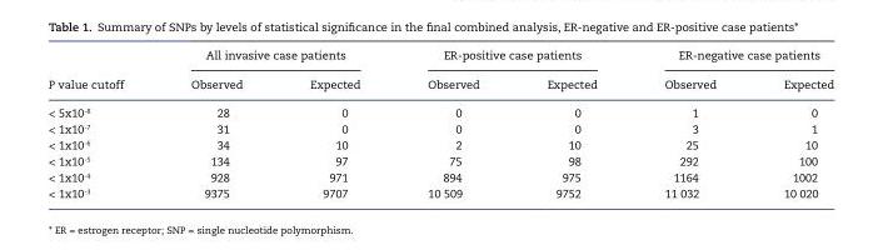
<table><thead><tr><td rowspan="2">P value cutoff</td><td colspan="2">All invasive case patients</td><td colspan="2">ER-positive case patients</td><td colspan="2">ER-negative case patients</td></tr><tr><td>Observed</td><td>Expected</td><td>Observed</td><td>Expected</td><td>Observed</td><td>Expected</td></tr></thead><tbody><tr><td>&lt; 5x10<sup>-8</sup></td><td>28</td><td>0</td><td>0</td><td>0</td><td>1</td><td>0</td></tr><tr><td>&lt; 1x10<sup>-7</sup></td><td>31</td><td>0</td><td>0</td><td>0</td><td>3</td><td>1</td></tr><tr><td>&lt; 1x10<sup>-6</sup></td><td>34</td><td>10</td><td>2</td><td>10</td><td>25</td><td>10</td></tr><tr><td>&lt; 1x10<sup>-5</sup></td><td>134</td><td>97</td><td>75</td><td>98</td><td>292</td><td>100</td></tr><tr><td>&lt; 1x10<sup>-4</sup></td><td>928</td><td>971</td><td>894</td><td>975</td><td>1164</td><td>1002</td></tr><tr><td>&lt; 1x10<sup>-3</sup></td><td>9375</td><td>9707</td><td>10 509</td><td>9752</td><td>11 032</td><td>10 020</td></tr></tbody></table>